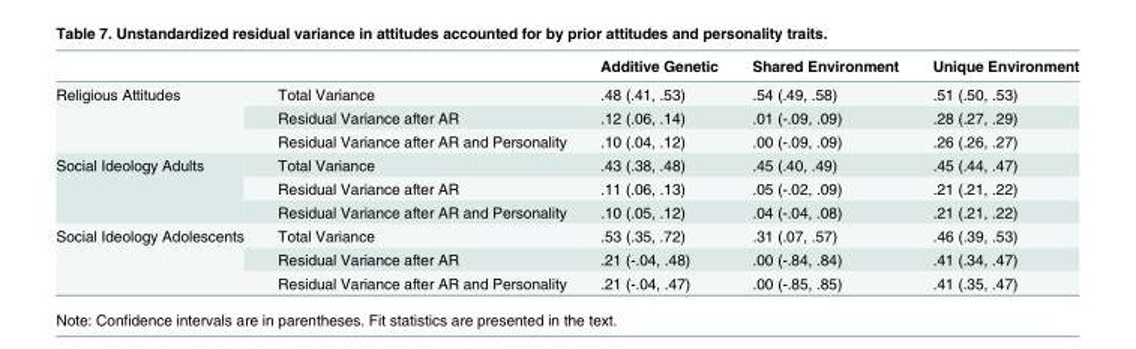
<table><thead><tr><td></td><td></td><td>Additive Genetic</td><td>Shared Environment</td><td>Unique Environment</td></tr></thead><tbody><tr><td rowspan="3">Religious Attitudes</td><td>Total Variance</td><td>.48 (.41, .53)</td><td>.54 (.49, .58)</td><td>.51 (.50, .53)</td></tr><tr><td>Residual Variance after AR</td><td>.12 (.06, .14)</td><td>.01 (-.09, .09)</td><td>.28 (.27, .29)</td></tr><tr><td>Residual Variance after AR and Personality</td><td>.10 (.04, .12)</td><td>.00 (-.09, .09)</td><td>.26 (.26, .27)</td></tr><tr><td rowspan="3">Social Ideology Adults</td><td>Total Variance</td><td>.43 (.38, .48)</td><td>.45 (.40, .49)</td><td>.45 (.44, .47)</td></tr><tr><td>Residual Variance after AR</td><td>.11 (.06, .13)</td><td>.05 (-.02, .09)</td><td>.21 (.21, .22)</td></tr><tr><td>Residual Variance after AR and Personality</td><td>.10 (.05, .12)</td><td>.04 (-.04, .08)</td><td>.21 (.21, .22)</td></tr><tr><td rowspan="3">Social Ideology Adolescents</td><td>Total Variance</td><td>.53 (.35, .72)</td><td>.31 (.07, .57)</td><td>.46 (.39, .53)</td></tr><tr><td>Residual Variance after AR</td><td>.21 (-.04, .48)</td><td>.00 (-.84, .84)</td><td>.41 (.34, .47)</td></tr><tr><td>Residual Variance after AR and Personality</td><td>.21 (-.04, .47)</td><td>.00 (-.85, .85)</td><td>.41 (.35, .47)</td></tr></tbody></table>